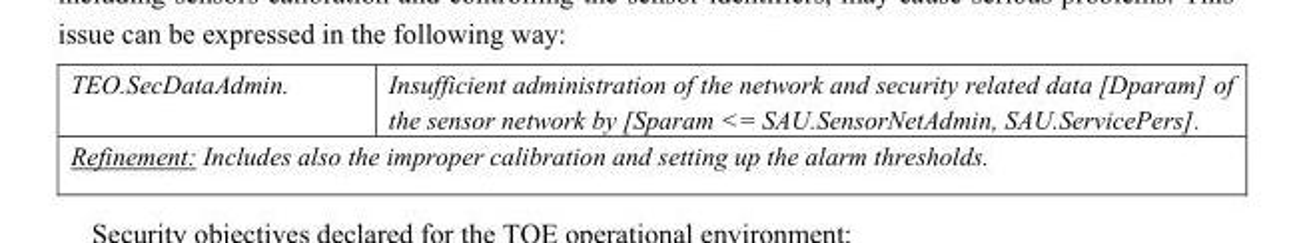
<table><tbody><tr><td>TEO.SecDataAdmin.</td><td>Insufficient administration of the network and security related data [Dparam] of the sensor network by [Sparam &lt;= SAU.SensorNetAdmin, SAU.ServicePers].</td></tr><tr><td colspan="2">Refinement: Includes also the improper calibration and setting up the alarm thresholds.</td></tr></tbody></table>